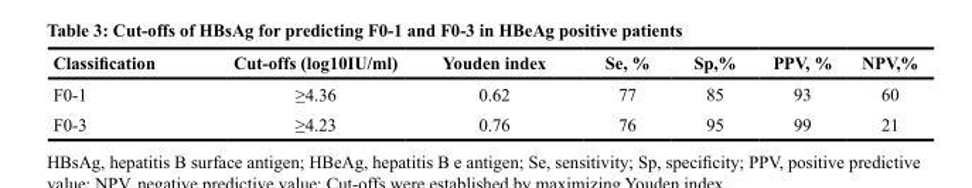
<table><thead><tr><td>Classification</td><td>Cut-offs (log10IU/ml)</td><td>Youden index</td><td>Se, %</td><td>Sp,%</td><td>PPV, %</td><td>NPV,%</td></tr></thead><tbody><tr><td>F0-1</td><td>≥4.36</td><td>0.62</td><td>77</td><td>85</td><td>93</td><td>60</td></tr><tr><td>F0-3</td><td>≥4.23</td><td>0.76</td><td>76</td><td>95</td><td>99</td><td>21</td></tr></tbody></table>